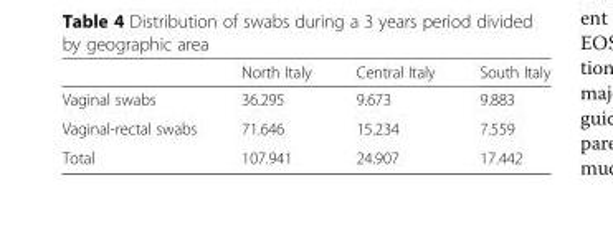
<table><thead><tr><td></td><td>North Italy</td><td>Central Italy</td><td>South Italy</td></tr></thead><tbody><tr><td>Vaginal swabs</td><td>36.295</td><td>9.673</td><td>9.883</td></tr><tr><td>Vaginal-rectal swabs</td><td>71.646</td><td>15.234</td><td>7.559</td></tr><tr><td>Total</td><td>107.941</td><td>24.907</td><td>17.442</td></tr></tbody></table>